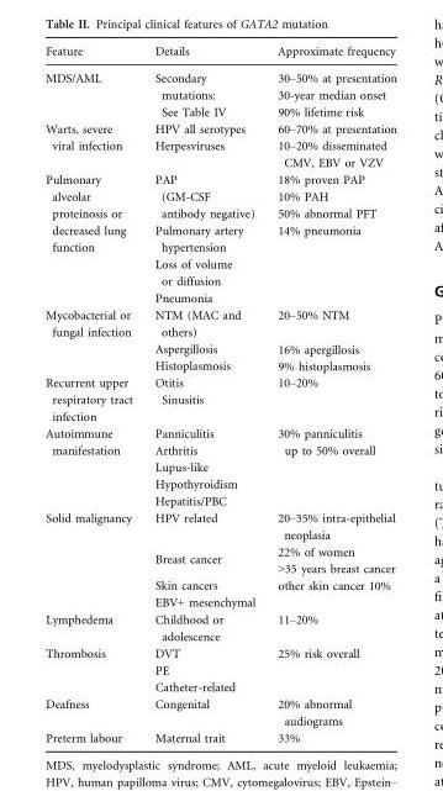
<table><thead><tr><td>Feature</td><td>Details</td><td>Approximate frequency</td></tr></thead><tbody><tr><td>MDS/AML</td><td>Secondary mutations: See Table IV</td><td>30–50% at presentation 30-year median onset 90% lifetime risk</td></tr><tr><td>Warts, severe viral infection</td><td>HPV all serotypes Herpesviruses</td><td>60–70% at presentation 10–20% disseminated CMV, EBV or VZV</td></tr><tr><td>Pulmonary alveolar proteinosis or decreased lung function</td><td>PAP (GM-CSF antibody negative) Pulmonary artery hypertension Loss of volume or diffusion Pneumonia</td><td>18% proven PAP 10% PAH 50% abnormal PFT 14% pneumonia</td></tr><tr><td>Mycobacterial or fungal infection</td><td>NTM (MAC and others) Aspergillosis Histoplasmosis</td><td>20–50% NTM 16% apergillosis 9% histoplasmosis</td></tr><tr><td>Recurrent upper respiratory tract infection</td><td>Otitis Sinusitis</td><td>10–20%</td></tr><tr><td>Autoimmune manifestation</td><td>Panniculitis Arthritis Lupus-like Hypothyroidism Hepatitis/PBC</td><td>30% panniculitis up to 50% overall</td></tr><tr><td>Solid malignancy</td><td>HPV related Breast cancer Skin cancers EBV+ mesenchymal</td><td>20–35% intra-epithelial neoplasia 22% of women &gt;35 years breast cancer other skin cancer 10%</td></tr><tr><td>Lymphedema</td><td>Childhood or adolescence</td><td>11–20%</td></tr><tr><td>Thrombosis</td><td>DVT PE Catheter-related</td><td>25% risk overall</td></tr><tr><td>Deafness</td><td>Congenital</td><td>20% abnormal audiograms</td></tr><tr><td>Preterm labour</td><td>Maternal trait</td><td>33%</td></tr></tbody></table>